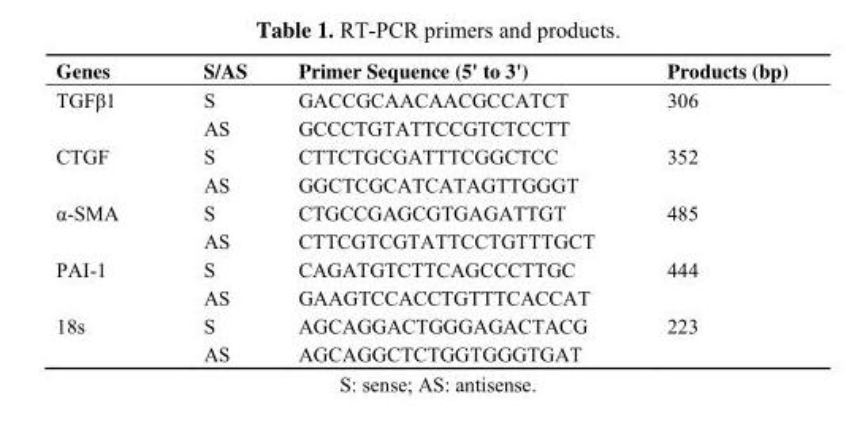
<table><thead><tr><td>Genes</td><td>S/AS</td><td>Primer Sequence (5&#x27; to 3&#x27;)</td><td>Products (bp)</td></tr></thead><tbody><tr><td rowspan="2">TGFβ1</td><td>S</td><td>GACCGCAACAACGCCATCT</td><td rowspan="2">306</td></tr><tr><td>AS</td><td>GCCCTGTATTCCGTCTCCTT</td></tr><tr><td rowspan="2">CTGF</td><td>S</td><td>CTTCTGCGATTTCGGCTCC</td><td rowspan="2">352</td></tr><tr><td>AS</td><td>GGCTCGCATCATAGTTGGGT</td></tr><tr><td rowspan="2">α-SMA</td><td>S</td><td>CTGCCGAGCGTGAGATTGT</td><td rowspan="2">485</td></tr><tr><td>AS</td><td>CTTCGTCGTATTCCTGTTTGCT</td></tr><tr><td rowspan="2">PAI-1</td><td>S</td><td>CAGATGTCTTCAGCCCTTGC</td><td rowspan="2">444</td></tr><tr><td>AS</td><td>GAAGTCCACCTGTTTCACCAT</td></tr><tr><td rowspan="2">18s</td><td>S</td><td>AGCAGGACTGGGAGACTACG</td><td rowspan="2">223</td></tr><tr><td>AS</td><td>AGCAGGCTCTGGTGGGTGAT</td></tr></tbody></table>